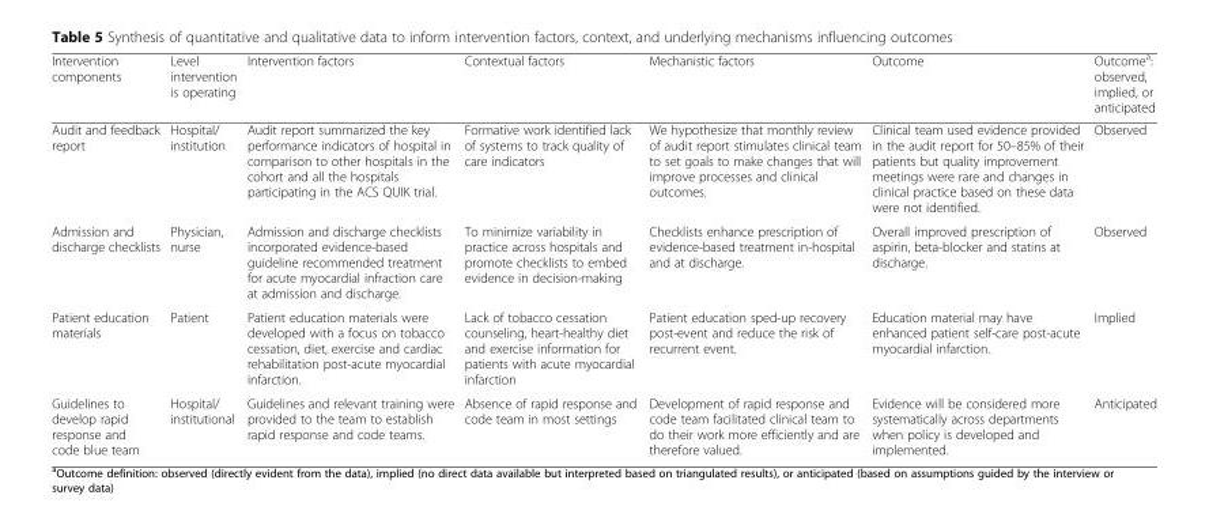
<table><thead><tr><td>Intervention components</td><td>Level intervention is operating</td><td>Intervention factors</td><td>Contextual factors</td><td>Mechanistic factors</td><td>Outcome</td><td>Outcome<sup>a</sup>: observed, implied, or anticipated</td></tr></thead><tbody><tr><td>Audit and feedback report</td><td>Hospital/ institution</td><td>Audit report summarized the key performance indicators of hospital in comparison to other hospitals in the cohort and all the hospitals participating in the ACS QUIK trial.</td><td>Formative work identified lack of systems to track quality of care indicators</td><td>We hypothesize that monthly review of audit report stimulates clinical team to set goals to make changes that will improve processes and clinical outcomes.</td><td>Clinical team used evidence provided in the audit report for 50–85% of their patients but quality improvement meetings were rare and changes in clinical practice based on these data were not identified.</td><td>Observed</td></tr><tr><td>Admission and discharge checklists</td><td>Physician, nurse</td><td>Admission and discharge checklists incorporated evidence-based guideline recommended treatment for acute myocardial infraction care at admission and discharge.</td><td>To minimize variability in practice across hospitals and promote checklists to embed evidence in decision-making</td><td>Checklists enhance prescription of evidence-based treatment in-hospital and at discharge.</td><td>Overall improved prescription of aspirin, beta-blocker and statins at discharge.</td><td>Observed</td></tr><tr><td>Patient education materials</td><td>Patient</td><td>Patient education materials were developed with a focus on tobacco cessation, diet, exercise and cardiac rehabilitation post-acute myocardial infarction.</td><td>Lack of tobacco cessation counseling, heart-healthy diet and exercise information for patients with acute myocardial infarction</td><td>Patient education sped-up recovery post-event and reduce the risk of recurrent event.</td><td>Education material may have enhanced patient self-care post-acute myocardial infarction.</td><td>Implied</td></tr><tr><td>Guidelines to develop rapid response and code blue team</td><td>Hospital/ institutional</td><td>Guidelines and relevant training were provided to the team to establish rapid response and code teams.</td><td>Absence of rapid response and code team in most settings</td><td>Development of rapid response and code team facilitated clinical team to do their work more efficiently and are therefore valued.</td><td>Evidence will be considered more systematically across departments when policy is developed and implemented.</td><td>Anticipated</td></tr></tbody></table>